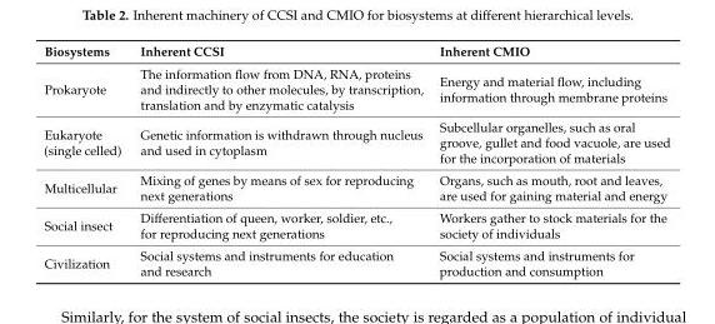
<table><thead><tr><td>Biosystems</td><td>Inherent CCSI</td><td>Inherent CMIO</td></tr></thead><tbody><tr><td>Prokaryote</td><td>The information flow from DNA, RNA, proteins and indirectly to other molecules, by transcription, translation and by enzymatic catalysis</td><td>Energy and material flow, including information through membrane proteins</td></tr><tr><td>Eukaryote (single celled)</td><td>Genetic information is withdrawn through nucleus and used in cytoplasm</td><td>Subcellular organelles, such as oral groove, gullet and food vacuole, are used for the incorporation of materials</td></tr><tr><td>Multicellular</td><td>Mixing of genes by means of sex for reproducing next generations</td><td>Organs, such as mouth, root and leaves, are used for gaining material and energy</td></tr><tr><td>Social insect</td><td>Differentiation of queen, worker, soldier, etc., for reproducing next generations</td><td>Workers gather to stock materials for the society of individuals</td></tr><tr><td>Civilization</td><td>Social systems and instruments for education and research</td><td>Social systems and instruments for production and consumption</td></tr></tbody></table>